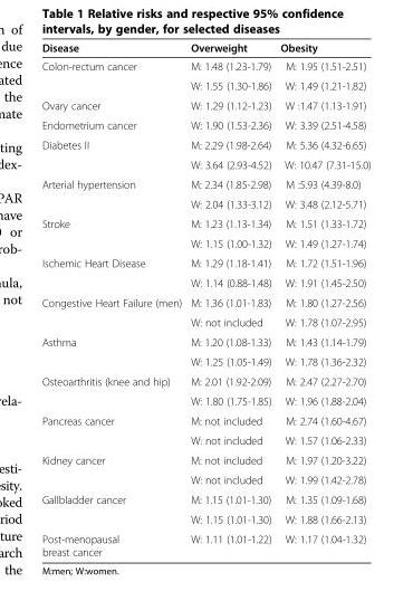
<table><thead><tr><td>Disease</td><td>Overweight</td><td>Obesity</td></tr></thead><tbody><tr><td rowspan="2">Colon-rectum cancer</td><td>M: 1.48 (1.23-1.79)</td><td>M: 1.95 (1.51-2.51)</td></tr><tr><td>W: 1.55 (1.30-1.86)</td><td>W: 1.49 (1.21-1.82)</td></tr><tr><td>Ovary cancer</td><td>W: 1.29 (1.12-1.23)</td><td>W :1.47 (1.13-1.91)</td></tr><tr><td>Endometrium cancer</td><td>W: 1.90 (1.53-2.36)</td><td>W: 3.39 (2.51-4.58)</td></tr><tr><td rowspan="2">Diabetes II</td><td>M: 2.29 (1.98-2.64)</td><td>M: 5.36 (4.32-6.65)</td></tr><tr><td>W: 3.64 (2.93-4.52)</td><td>W: 10.47 (7.31-15.0)</td></tr><tr><td rowspan="2">Arterial hypertension</td><td>M: 2.34 (1.85-2.98)</td><td>M :5.93 (4.39-8.0)</td></tr><tr><td>W: 2.04 (1.33-3.12)</td><td>W: 3.48 (2.12-5.71)</td></tr><tr><td rowspan="2">Stroke</td><td>M: 1.23 (1.13-1.34)</td><td>M: 1.51 (1.33-1.72)</td></tr><tr><td>W: 1.15 (1.00-1.32)</td><td>W: 1.49 (1.27-1.74)</td></tr><tr><td rowspan="2">Ischemic Heart Disease</td><td>M: 1.29 (1.18-1.41)</td><td>M: 1.72 (1.51-1.96)</td></tr><tr><td>W: 1.14 (0.88-1.48)</td><td>W: 1.91 (1.45-2.50)</td></tr><tr><td rowspan="2">Congestive Heart Failure (men)</td><td>M: 1.36 (1.01-1.83)</td><td>M: 1.80 (1.27-2.56)</td></tr><tr><td>W: not included</td><td>W: 1.78 (1.07-2.95)</td></tr><tr><td rowspan="2">Asthma</td><td>M: 1.20 (1.08-1.33)</td><td>M: 1.43 (1.14-1.79)</td></tr><tr><td>W: 1.25 (1.05-1.49)</td><td>W: 1.78 (1.36-2.32)</td></tr><tr><td rowspan="2">Osteoarthritis (knee and hip)</td><td>M: 2.01 (1.92-2.09)</td><td>M: 2.47 (2.27-2.70)</td></tr><tr><td>W: 1.80 (1.75-1.85)</td><td>W: 1.96 (1.88-2.04)</td></tr><tr><td rowspan="2">Pancreas cancer</td><td>M: not included</td><td>M: 2.74 (1.60-4.67)</td></tr><tr><td>W: not included</td><td>W: 1.57 (1.06-2.33)</td></tr><tr><td rowspan="2">Kidney cancer</td><td>M: not included</td><td>M: 1.97 (1.20-3.22)</td></tr><tr><td>W: not included</td><td>W: 1.99 (1.42-2.78)</td></tr><tr><td rowspan="2">Gallbladder cancer</td><td>M: 1.15 (1.01-1.30)</td><td>M: 1.35 (1.09-1.68)</td></tr><tr><td>W: 1.15 (1.01-1.30)</td><td>W: 1.88 (1.66-2.13)</td></tr><tr><td>Post-menopausal breast cancer</td><td>W: 1.11 (1.01-1.22)</td><td>W: 1.17 (1.04-1.32)</td></tr></tbody></table>